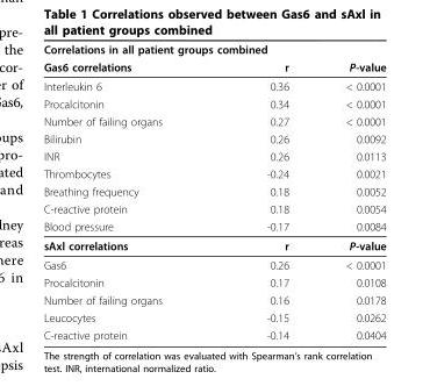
<table><thead><tr><td colspan="3">Correlations in all patient groups combined</td></tr><tr><td>Gas6 correlations</td><td>r</td><td>P-value</td></tr></thead><tbody><tr><td>Interleukin 6</td><td>0.36</td><td>&lt; 0.0001</td></tr><tr><td>Procalcitonin</td><td>0.34</td><td>&lt; 0.0001</td></tr><tr><td>Number of failing organs</td><td>0.27</td><td>&lt; 0.0001</td></tr><tr><td>Bilirubin</td><td>0.26</td><td>0.0092</td></tr><tr><td>INR</td><td>0.26</td><td>0.0113</td></tr><tr><td>Thrombocytes</td><td>-0.24</td><td>0.0021</td></tr><tr><td>Breathing frequency</td><td>0.18</td><td>0.0052</td></tr><tr><td>C-reactive protein</td><td>0.18</td><td>0.0054</td></tr><tr><td>Blood pressure</td><td>-0.17</td><td>0.0084</td></tr><tr><td>sAxl correlations</td><td>r</td><td>P-value</td></tr><tr><td>Gas6</td><td>0.26</td><td>&lt; 0.0001</td></tr><tr><td>Procalcitonin</td><td>0.17</td><td>0.0108</td></tr><tr><td>Number of failing organs</td><td>0.16</td><td>0.0178</td></tr><tr><td>Leucocytes</td><td>-0.15</td><td>0.0262</td></tr><tr><td>C-reactive protein</td><td>-0.14</td><td>0.0404</td></tr></tbody></table>